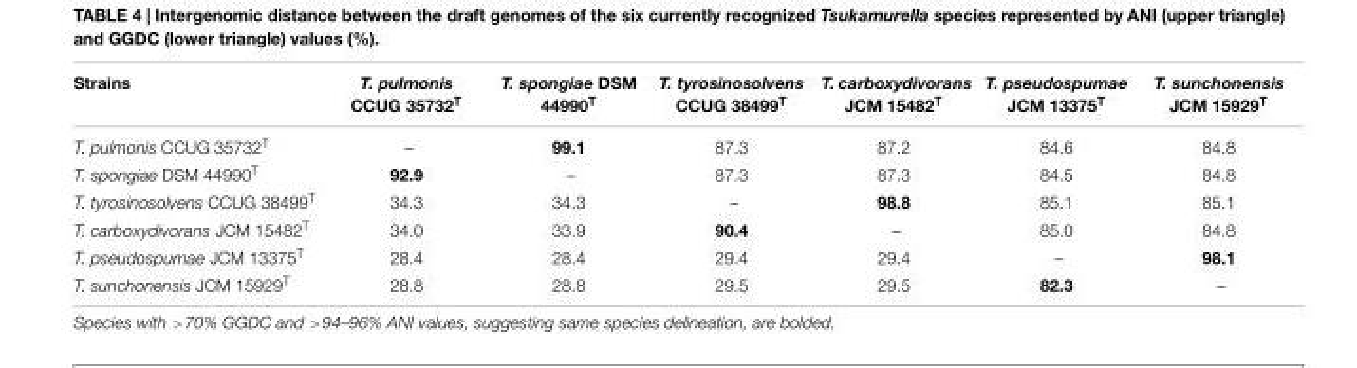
<table><thead><tr><td>Strains</td><td>T. pulmonis CCUG 35732<sup>T</sup></td><td>T. spongiae DSM 44990<sup>T</sup></td><td>T. tyrosinosolvens CCUG 38499<sup>T</sup></td><td>T. carboxydivorans JCM 15482<sup>T</sup></td><td>T. pseudospumae JCM 13375<sup>T</sup></td><td>T. sunchonensis JCM 15929<sup>T</sup></td></tr></thead><tbody><tr><td>T. pulmonis CCUG 35732<sup>T</sup></td><td>–</td><td>99.1</td><td>87.3</td><td>87.2</td><td>84.6</td><td>84.8</td></tr><tr><td>T. spongiae DSM 44990<sup>T</sup></td><td>92.9</td><td>–</td><td>87.3</td><td>87.3</td><td>84.5</td><td>84.8</td></tr><tr><td>T. tyrosinosolvens CCUG 38499<sup>T</sup></td><td>34.3</td><td>34.3</td><td>–</td><td>98.8</td><td>85.1</td><td>85.1</td></tr><tr><td>T. carboxydivorans JCM 15482<sup>T</sup></td><td>34.0</td><td>33.9</td><td>90.4</td><td>–</td><td>85.0</td><td>84.8</td></tr><tr><td>T. pseudospumae JCM 13375<sup>T</sup></td><td>28.4</td><td>28.4</td><td>29.4</td><td>29.4</td><td>–</td><td>98.1</td></tr><tr><td>T. sunchonensis JCM 15929<sup>T</sup></td><td>28.8</td><td>28.8</td><td>29.5</td><td>29.5</td><td>82.3</td><td>–</td></tr></tbody></table>